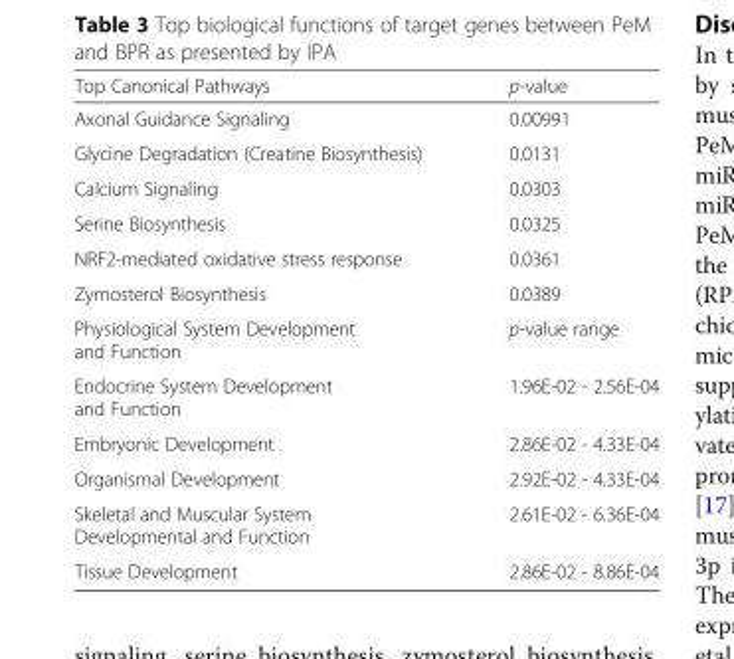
<table><thead><tr><td>Top Canonical Pathways</td><td>p-value</td></tr></thead><tbody><tr><td>Axonal Guidance Signaling</td><td>0.00991</td></tr><tr><td>Glycine Degradation (Creatine Biosynthesis)</td><td>0.0131</td></tr><tr><td>Calcium Signaling</td><td>0.0303</td></tr><tr><td>Serine Biosynthesis</td><td>0.0325</td></tr><tr><td>NRF2-mediated oxidative stress response</td><td>0.0361</td></tr><tr><td>Zymosterol Biosynthesis</td><td>0.0389</td></tr><tr><td>Physiological System Development and Function</td><td>p-value range</td></tr><tr><td>Endocrine System Development and Function</td><td>1.96E-02 - 2.56E-04</td></tr><tr><td>Embryonic Development</td><td>2.86E-02 - 4.33E-04</td></tr><tr><td>Organismal Development</td><td>2.92E-02 - 4.33E-04</td></tr><tr><td>Skeletal and Muscular System Developmental and Function</td><td>2.61E-02 - 6.36E-04</td></tr><tr><td>Tissue Development</td><td>2.86E-02 - 8.86E-04</td></tr></tbody></table>